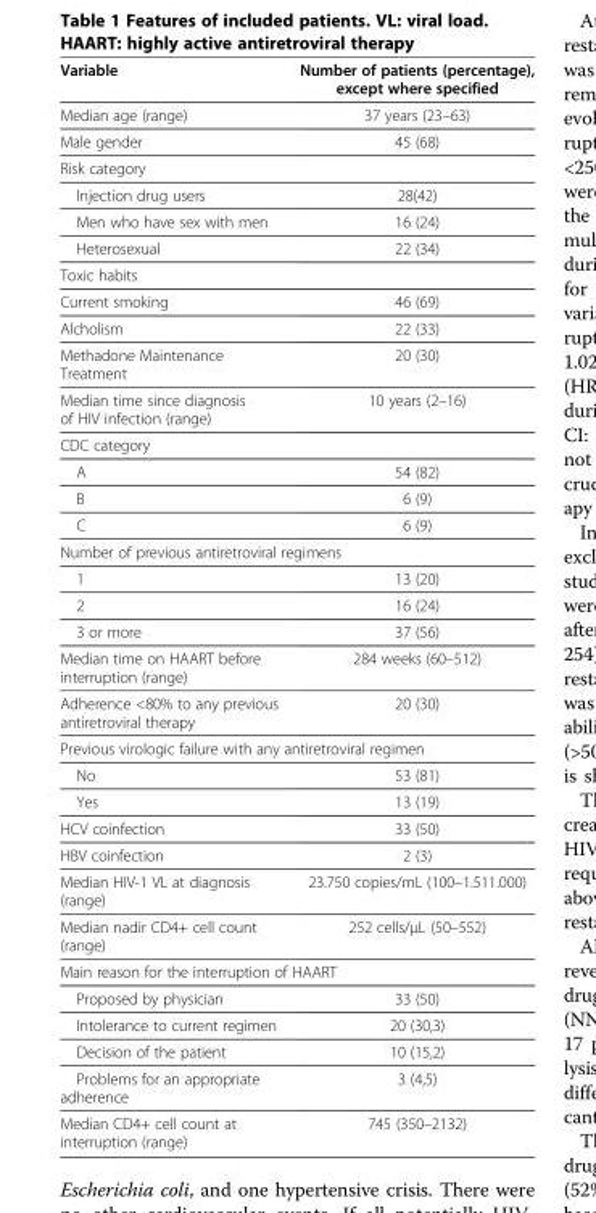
<table><thead><tr><td>Variable</td><td>Number of patients (percentage), except where specified</td></tr></thead><tbody><tr><td>Median age (range)</td><td>37 years (23–63)</td></tr><tr><td>Male gender</td><td>45 (68)</td></tr><tr><td colspan="2">Risk category</td></tr><tr><td>Injection drug users</td><td>28(42)</td></tr><tr><td>Men who have sex with men</td><td>16 (24)</td></tr><tr><td>Heterosexual</td><td>22 (34)</td></tr><tr><td colspan="2">Toxic habits</td></tr><tr><td>Current smoking</td><td>46 (69)</td></tr><tr><td>Alcholism</td><td>22 (33)</td></tr><tr><td>Methadone Maintenance Treatment</td><td>20 (30)</td></tr><tr><td>Median time since diagnosis of HIV infection (range)</td><td>10 years (2–16)</td></tr><tr><td colspan="2">CDC category</td></tr><tr><td>A</td><td>54 (82)</td></tr><tr><td>B</td><td>6 (9)</td></tr><tr><td>C</td><td>6 (9)</td></tr><tr><td colspan="2">Number of previous antiretroviral regimens</td></tr><tr><td>1</td><td>13 (20)</td></tr><tr><td>2</td><td>16 (24)</td></tr><tr><td>3 or more</td><td>37 (56)</td></tr><tr><td>Median time on HAART before interruption (range)</td><td>284 weeks (60–512)</td></tr><tr><td>Adherence &lt;80% to any previous antiretroviral therapy</td><td>20 (30)</td></tr><tr><td colspan="2">Previous virologic failure with any antiretroviral regimen</td></tr><tr><td>No</td><td>53 (81)</td></tr><tr><td>Yes</td><td>13 (19)</td></tr><tr><td>HCV coinfection</td><td>33 (50)</td></tr><tr><td>HBV coinfection</td><td>2 (3)</td></tr><tr><td>Median HIV-1 VL at diagnosis (range)</td><td>23.750 copies/mL (100–1.511.000)</td></tr><tr><td>Median nadir CD4+ cell count (range)</td><td>252 cells/μL (50–552)</td></tr><tr><td colspan="2">Main reason for the interruption of HAART</td></tr><tr><td>Proposed by physician</td><td>33 (50)</td></tr><tr><td>Intolerance to current regimen</td><td>20 (30,3)</td></tr><tr><td>Decision of the patient</td><td>10 (15,2)</td></tr><tr><td>Problems for an appropriate adherence</td><td>3 (4,5)</td></tr><tr><td>Median CD4+ cell count at interruption (range)</td><td>745 (350–2132)</td></tr></tbody></table>